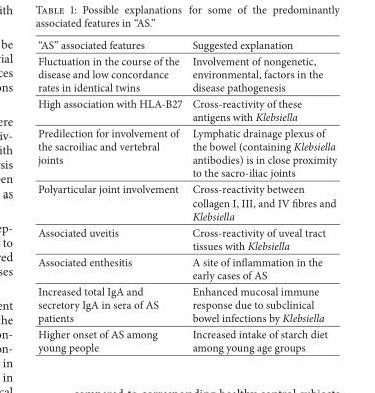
<table><thead><tr><td>“AS” associated features</td><td>Suggested explanation</td></tr></thead><tbody><tr><td>Fluctuation in the course of the disease and low concordance rates in identical twins</td><td>Involvement of nongenetic, environmental, factors in the disease pathogenesis</td></tr><tr><td>High association with HLA-B27</td><td>Cross-reactivity of these antigens with Klebsiella</td></tr><tr><td>Predilection for involvement of the sacroiliac and vertebral joints</td><td>Lymphatic drainage plexus of the bowel (containing Klebsiella antibodies) is in close proximity to the sacro-iliac joints</td></tr><tr><td>Polyarticular joint involvement</td><td>Cross-reactivity between collagen I, III, and IV fibres and Klebsiella</td></tr><tr><td>Associated uveitis</td><td>Cross-reactivity of uveal tract tissues with Klebsiella</td></tr><tr><td>Associated enthesitis</td><td>A site of inflammation in the early cases of AS</td></tr><tr><td>Increased total IgA and secretory IgA in sera of AS patients</td><td>Enhanced mucosal immune response due to subclinical bowel infections by Klebsiella</td></tr><tr><td>Higher onset of AS among young people</td><td>Increased intake of starch diet among young age groups</td></tr></tbody></table>